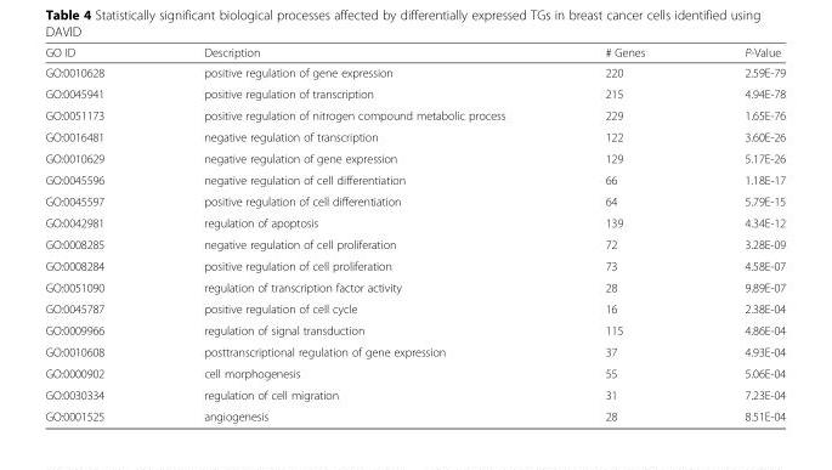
<table><thead><tr><td>GO ID</td><td>Description</td><td># Genes</td><td>P-Value</td></tr></thead><tbody><tr><td>GO:0010628</td><td>positive regulation of gene expression</td><td>220</td><td>2.59E-79</td></tr><tr><td>GO:0045941</td><td>positive regulation of transcription</td><td>215</td><td>4.94E-78</td></tr><tr><td>GO:0051173</td><td>positive regulation of nitrogen compound metabolic process</td><td>229</td><td>1.65E-76</td></tr><tr><td>GO:0016481</td><td>negative regulation of transcription</td><td>122</td><td>3.60E-26</td></tr><tr><td>GO:0010629</td><td>negative regulation of gene expression</td><td>129</td><td>5.17E-26</td></tr><tr><td>GO:0045596</td><td>negative regulation of cell differentiation</td><td>66</td><td>1.18E-17</td></tr><tr><td>GO:0045597</td><td>positive regulation of cell differentiation</td><td>64</td><td>5.79E-15</td></tr><tr><td>GO:0042981</td><td>regulation of apoptosis</td><td>139</td><td>4.34E-12</td></tr><tr><td>GO:0008285</td><td>negative regulation of cell proliferation</td><td>72</td><td>3.28E-09</td></tr><tr><td>GO:0008284</td><td>positive regulation of cell proliferation</td><td>73</td><td>4.58E-07</td></tr><tr><td>GO:0051090</td><td>regulation of transcription factor activity</td><td>28</td><td>9.89E-07</td></tr><tr><td>GO:0045787</td><td>positive regulation of cell cycle</td><td>16</td><td>2.38E-04</td></tr><tr><td>GO:0009966</td><td>regulation of signal transduction</td><td>115</td><td>4.86E-04</td></tr><tr><td>GO:0010608</td><td>posttranscriptional regulation of gene expression</td><td>37</td><td>4.93E-04</td></tr><tr><td>GO:0000902</td><td>cell morphogenesis</td><td>55</td><td>5.06E-04</td></tr><tr><td>GO:0030334</td><td>regulation of cell migration</td><td>31</td><td>7.23E-04</td></tr><tr><td>GO:0001525</td><td>angiogenesis</td><td>28</td><td>8.51E-04</td></tr></tbody></table>